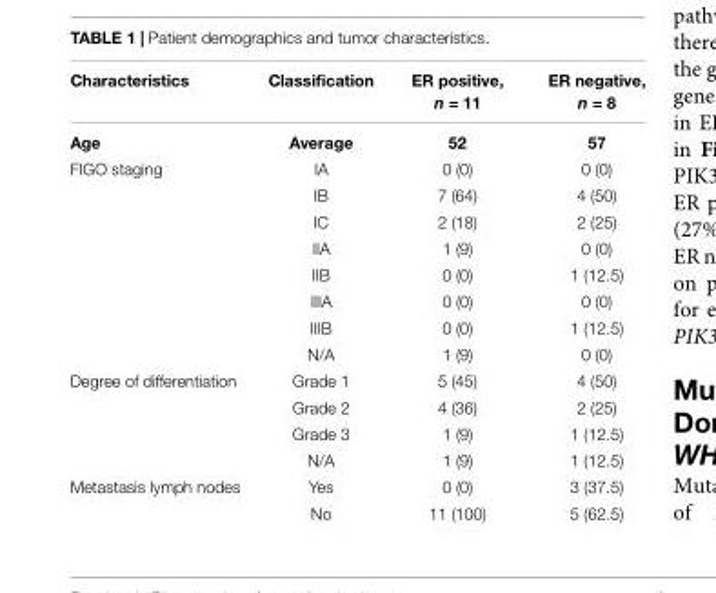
<table><thead><tr><td>Characteristics</td><td>Classification</td><td>ER positive, n = 11</td><td>ER negative, n = 8</td></tr></thead><tbody><tr><td>Age</td><td>Average</td><td>52</td><td>57</td></tr><tr><td rowspan="8">FIGO staging</td><td>IA</td><td>0 (0)</td><td>0 (0)</td></tr><tr><td>IB</td><td>7 (64)</td><td>4 (50)</td></tr><tr><td>IC</td><td>2 (18)</td><td>2 (25)</td></tr><tr><td>IIA</td><td>1 (9)</td><td>0 (0)</td></tr><tr><td>IIB</td><td>0 (0)</td><td>1 (12.5)</td></tr><tr><td>IIIA</td><td>0 (0)</td><td>0 (0)</td></tr><tr><td>IIIB</td><td>0 (0)</td><td>1 (12.5)</td></tr><tr><td>N/A</td><td>1 (9)</td><td>0 (0)</td></tr><tr><td rowspan="4">Degree of differentiation</td><td>Grade 1</td><td>5 (45)</td><td>4 (50)</td></tr><tr><td>Grade 2</td><td>4 (36)</td><td>2 (25)</td></tr><tr><td>Grade 3</td><td>1 (9)</td><td>1 (12.5)</td></tr><tr><td>N/A</td><td>1 (9)</td><td>1 (12.5)</td></tr><tr><td rowspan="2">Metastasis lymph nodes</td><td>Yes</td><td>0 (0)</td><td>3 (37.5)</td></tr><tr><td>No</td><td>11 (100)</td><td>5 (62.5)</td></tr></tbody></table>